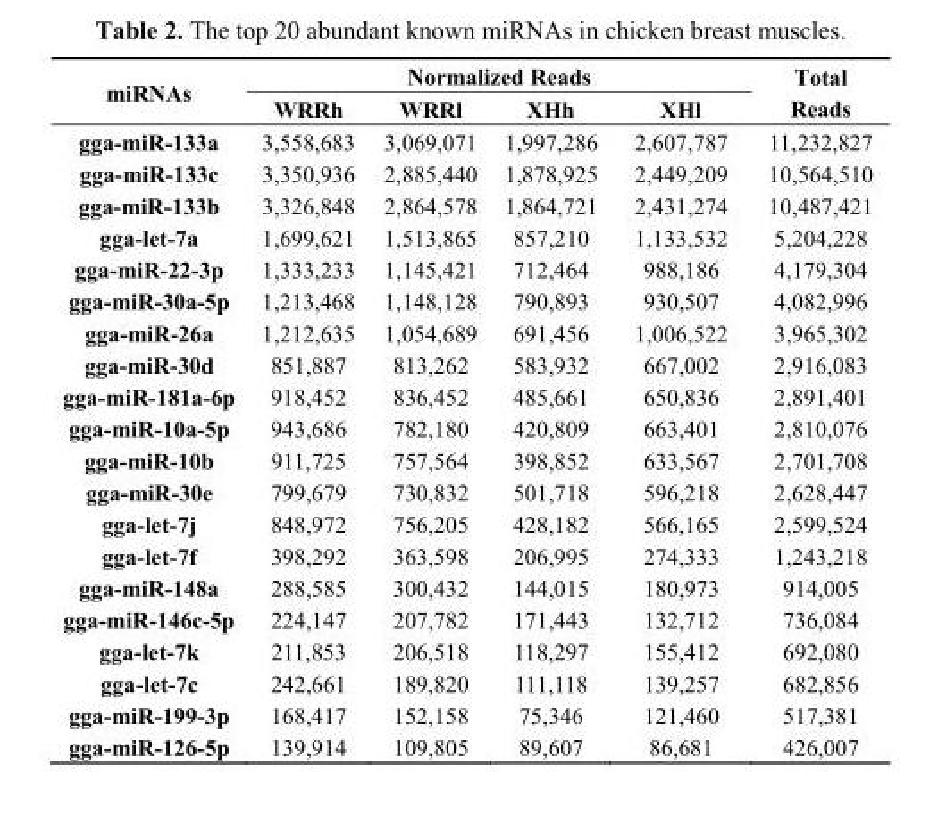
<table><thead><tr><td rowspan="2">miRNAs</td><td colspan="4">Normalized Reads</td><td rowspan="2">Total Reads</td></tr><tr><td>WRRh</td><td>WRRl</td><td>XHh</td><td>XHl</td></tr></thead><tbody><tr><td>gga-miR-133a</td><td>3,558,683</td><td>3,069,071</td><td>1,997,286</td><td>2,607,787</td><td>11,232,827</td></tr><tr><td>gga-miR-133c</td><td>3,350,936</td><td>2,885,440</td><td>1,878,925</td><td>2,449,209</td><td>10,564,510</td></tr><tr><td>gga-miR-133b</td><td>3,326,848</td><td>2,864,578</td><td>1,864,721</td><td>2,431,274</td><td>10,487,421</td></tr><tr><td>gga-let-7a</td><td>1,699,621</td><td>1,513,865</td><td>857,210</td><td>1,133,532</td><td>5,204,228</td></tr><tr><td>gga-miR-22-3p</td><td>1,333,233</td><td>1,145,421</td><td>712,464</td><td>988,186</td><td>4,179,304</td></tr><tr><td>gga-miR-30a-5p</td><td>1,213,468</td><td>1,148,128</td><td>790,893</td><td>930,507</td><td>4,082,996</td></tr><tr><td>gga-miR-26a</td><td>1,212,635</td><td>1,054,689</td><td>691,456</td><td>1,006,522</td><td>3,965,302</td></tr><tr><td>gga-miR-30d</td><td>851,887</td><td>813,262</td><td>583,932</td><td>667,002</td><td>2,916,083</td></tr><tr><td>gga-miR-181a-6p</td><td>918,452</td><td>836,452</td><td>485,661</td><td>650,836</td><td>2,891,401</td></tr><tr><td>gga-miR-10a-5p</td><td>943,686</td><td>782,180</td><td>420,809</td><td>663,401</td><td>2,810,076</td></tr><tr><td>gga-miR-10b</td><td>911,725</td><td>757,564</td><td>398,852</td><td>633,567</td><td>2,701,708</td></tr><tr><td>gga-miR-30e</td><td>799,679</td><td>730,832</td><td>501,718</td><td>596,218</td><td>2,628,447</td></tr><tr><td>gga-let-7j</td><td>848,972</td><td>756,205</td><td>428,182</td><td>566,165</td><td>2,599,524</td></tr><tr><td>gga-let-7f</td><td>398,292</td><td>363,598</td><td>206,995</td><td>274,333</td><td>1,243,218</td></tr><tr><td>gga-miR-148a</td><td>288,585</td><td>300,432</td><td>144,015</td><td>180,973</td><td>914,005</td></tr><tr><td>gga-miR-146c-5p</td><td>224,147</td><td>207,782</td><td>171,443</td><td>132,712</td><td>736,084</td></tr><tr><td>gga-let-7k</td><td>211,853</td><td>206,518</td><td>118,297</td><td>155,412</td><td>692,080</td></tr><tr><td>gga-let-7c</td><td>242,661</td><td>189,820</td><td>111,118</td><td>139,257</td><td>682,856</td></tr><tr><td>gga-miR-199-3p</td><td>168,417</td><td>152,158</td><td>75,346</td><td>121,460</td><td>517,381</td></tr><tr><td>gga-miR-126-5p</td><td>139,914</td><td>109,805</td><td>89,607</td><td>86,681</td><td>426,007</td></tr></tbody></table>